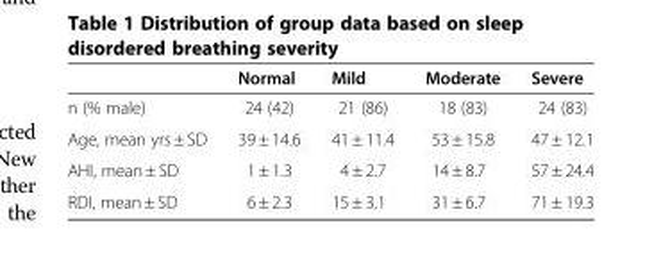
<table><thead><tr><td></td><td>Normal</td><td>Mild</td><td>Moderate</td><td>Severe</td></tr></thead><tbody><tr><td>n (% male)</td><td>24 (42)</td><td>21 (86)</td><td>18 (83)</td><td>24 (83)</td></tr><tr><td>Age, mean yrs ± SD</td><td>39 ± 14.6</td><td>41 ± 11.4</td><td>53 ± 15.8</td><td>47 ± 12.1</td></tr><tr><td>AHI, mean ± SD</td><td>1 ± 1.3</td><td>4 ± 2.7</td><td>14 ± 8.7</td><td>57 ± 24.4</td></tr><tr><td>RDI, mean ± SD</td><td>6 ± 2.3</td><td>15 ± 3.1</td><td>31 ± 6.7</td><td>71 ± 19.3</td></tr></tbody></table>